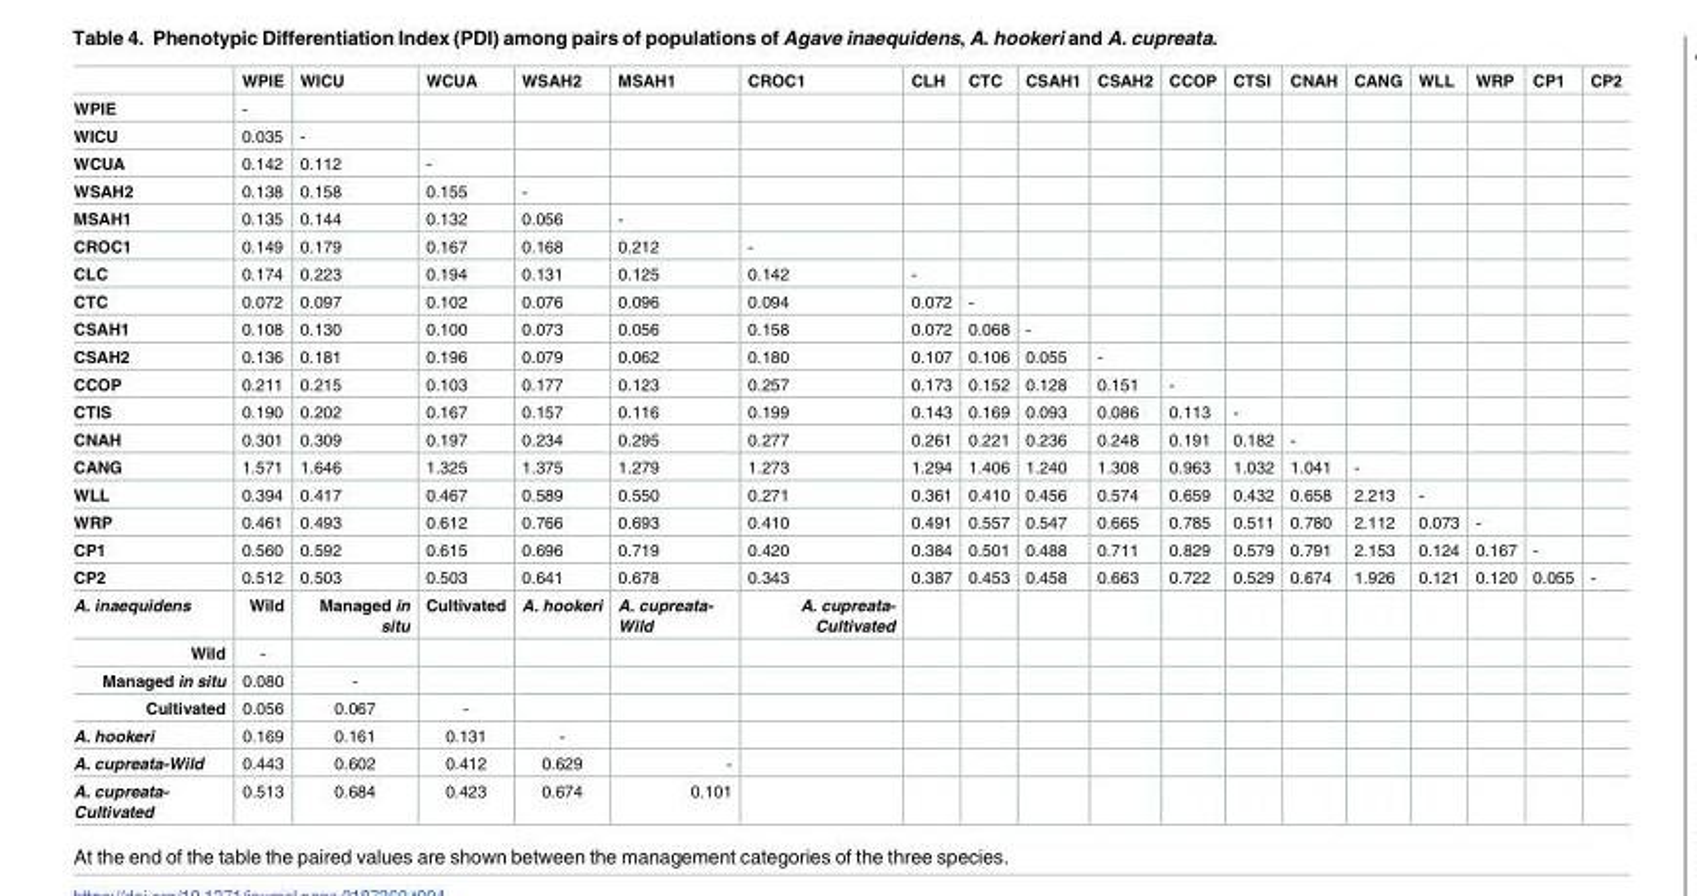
<table><thead><tr><td></td><td>WPIE</td><td>WICU</td><td>WCUA</td><td>WSAH2</td><td>MSAH1</td><td>CROC1</td><td>CLH</td><td>CTC</td><td>CSAH1</td><td>CSAH2</td><td>CCOP</td><td>CTSI</td><td>CNAH</td><td>CANG</td><td>WLL</td><td>WRP</td><td>CP1</td><td>CP2</td></tr></thead><tbody><tr><td>WPIE</td><td>-</td><td></td><td></td><td></td><td></td><td></td><td></td><td></td><td></td><td></td><td></td><td></td><td></td><td></td><td></td><td></td><td></td><td></td></tr><tr><td>WICU</td><td>0.035</td><td>-</td><td></td><td></td><td></td><td></td><td></td><td></td><td></td><td></td><td></td><td></td><td></td><td></td><td></td><td></td><td></td><td></td></tr><tr><td>WCUA</td><td>0.142</td><td>0.112</td><td>-</td><td></td><td></td><td></td><td></td><td></td><td></td><td></td><td></td><td></td><td></td><td></td><td></td><td></td><td></td><td></td></tr><tr><td>WSAH2</td><td>0.138</td><td>0.158</td><td>0.155</td><td>-</td><td></td><td></td><td></td><td></td><td></td><td></td><td></td><td></td><td></td><td></td><td></td><td></td><td></td><td></td></tr><tr><td>MSAH1</td><td>0.135</td><td>0.144</td><td>0.132</td><td>0.056</td><td>-</td><td></td><td></td><td></td><td></td><td></td><td></td><td></td><td></td><td></td><td></td><td></td><td></td><td></td></tr><tr><td>CROC1</td><td>0.149</td><td>0.179</td><td>0.167</td><td>0.168</td><td>0.212</td><td>-</td><td></td><td></td><td></td><td></td><td></td><td></td><td></td><td></td><td></td><td></td><td></td><td></td></tr><tr><td>CLC</td><td>0.174</td><td>0.223</td><td>0.194</td><td>0.131</td><td>0.125</td><td>0.142</td><td>-</td><td></td><td></td><td></td><td></td><td></td><td></td><td></td><td></td><td></td><td></td><td></td></tr><tr><td>CTC</td><td>0.072</td><td>0.097</td><td>0.102</td><td>0.076</td><td>0.096</td><td>0.094</td><td>0.072</td><td>-</td><td></td><td></td><td></td><td></td><td></td><td></td><td></td><td></td><td></td><td></td></tr><tr><td>CSAH1</td><td>0.108</td><td>0.130</td><td>0.100</td><td>0.073</td><td>0.056</td><td>0.158</td><td>0.072</td><td>0.068</td><td>-</td><td></td><td></td><td></td><td></td><td></td><td></td><td></td><td></td><td></td></tr><tr><td>CSAH2</td><td>0.136</td><td>0.181</td><td>0.196</td><td>0.079</td><td>0.062</td><td>0.180</td><td>0.107</td><td>0.106</td><td>0.055</td><td>-</td><td></td><td></td><td></td><td></td><td></td><td></td><td></td><td></td></tr><tr><td>CCOP</td><td>0.211</td><td>0.215</td><td>0.103</td><td>0.177</td><td>0.123</td><td>0.257</td><td>0.173</td><td>0.152</td><td>0.128</td><td>0.151</td><td>-</td><td></td><td></td><td></td><td></td><td></td><td></td><td></td></tr><tr><td>CTIS</td><td>0.190</td><td>0.202</td><td>0.167</td><td>0.157</td><td>0.116</td><td>0.199</td><td>0.143</td><td>0.169</td><td>0.093</td><td>0.086</td><td>0.113</td><td>-</td><td></td><td></td><td></td><td></td><td></td><td></td></tr><tr><td>CNAH</td><td>0.301</td><td>0.309</td><td>0.197</td><td>0.234</td><td>0.295</td><td>0.277</td><td>0.261</td><td>0.221</td><td>0.236</td><td>0.248</td><td>0.191</td><td>0.182</td><td>-</td><td></td><td></td><td></td><td></td><td></td></tr><tr><td>CANG</td><td>1.571</td><td>1.646</td><td>1.325</td><td>1.375</td><td>1.279</td><td>1.273</td><td>1.294</td><td>1.406</td><td>1.240</td><td>1.308</td><td>0.963</td><td>1.032</td><td>1.041</td><td>-</td><td></td><td></td><td></td><td></td></tr><tr><td>WLL</td><td>0.394</td><td>0.417</td><td>0.467</td><td>0.589</td><td>0.550</td><td>0.271</td><td>0.361</td><td>0.410</td><td>0.456</td><td>0.574</td><td>0.659</td><td>0.432</td><td>0.658</td><td>2.213</td><td>-</td><td></td><td></td><td></td></tr><tr><td>WRP</td><td>0.461</td><td>0.493</td><td>0.612</td><td>0.766</td><td>0.693</td><td>0.410</td><td>0.491</td><td>0.557</td><td>0.547</td><td>0.665</td><td>0.785</td><td>0.511</td><td>0.780</td><td>2.112</td><td>0.073</td><td>-</td><td></td><td></td></tr><tr><td>CP1</td><td>0.560</td><td>0.592</td><td>0.615</td><td>0.696</td><td>0.719</td><td>0.420</td><td>0.384</td><td>0.501</td><td>0.488</td><td>0.711</td><td>0.829</td><td>0.579</td><td>0.791</td><td>2.153</td><td>0.124</td><td>0.167</td><td>-</td><td></td></tr><tr><td>CP2</td><td>0.512</td><td>0.503</td><td>0.503</td><td>0.641</td><td>0.678</td><td>0.343</td><td>0.387</td><td>0.453</td><td>0.458</td><td>0.663</td><td>0.722</td><td>0.529</td><td>0.674</td><td>1.926</td><td>0.121</td><td>0.120</td><td>0.055</td><td>-</td></tr><tr><td>A. inaequidens</td><td>Wild</td><td>Managed in situ</td><td>Cultivated</td><td>A. hookeri</td><td>A. cupreata- Wild</td><td>A. cupreata- Cultivated</td><td></td><td></td><td></td><td></td><td></td><td></td><td></td><td></td><td></td><td></td><td></td><td></td></tr><tr><td>Wild</td><td>-</td><td></td><td></td><td></td><td></td><td></td><td></td><td></td><td></td><td></td><td></td><td></td><td></td><td></td><td></td><td></td><td></td><td></td></tr><tr><td>Managed in situ</td><td>0.080</td><td>-</td><td></td><td></td><td></td><td></td><td></td><td></td><td></td><td></td><td></td><td></td><td></td><td></td><td></td><td></td><td></td><td></td></tr><tr><td>Cultivated</td><td>0.056</td><td>0.067</td><td>-</td><td></td><td></td><td></td><td></td><td></td><td></td><td></td><td></td><td></td><td></td><td></td><td></td><td></td><td></td><td></td></tr><tr><td>A. hookeri</td><td>0.169</td><td>0.161</td><td>0.131</td><td>-</td><td></td><td></td><td></td><td></td><td></td><td></td><td></td><td></td><td></td><td></td><td></td><td></td><td></td><td></td></tr><tr><td>A. cupreata-Wild</td><td>0.443</td><td>0.602</td><td>0.412</td><td>0.629</td><td>-</td><td></td><td></td><td></td><td></td><td></td><td></td><td></td><td></td><td></td><td></td><td></td><td></td><td></td></tr><tr><td>A. cupreata- Cultivated</td><td>0.513</td><td>0.684</td><td>0.423</td><td>0.674</td><td>0.101</td><td></td><td></td><td></td><td></td><td></td><td></td><td></td><td></td><td></td><td></td><td></td><td></td><td></td></tr></tbody></table>